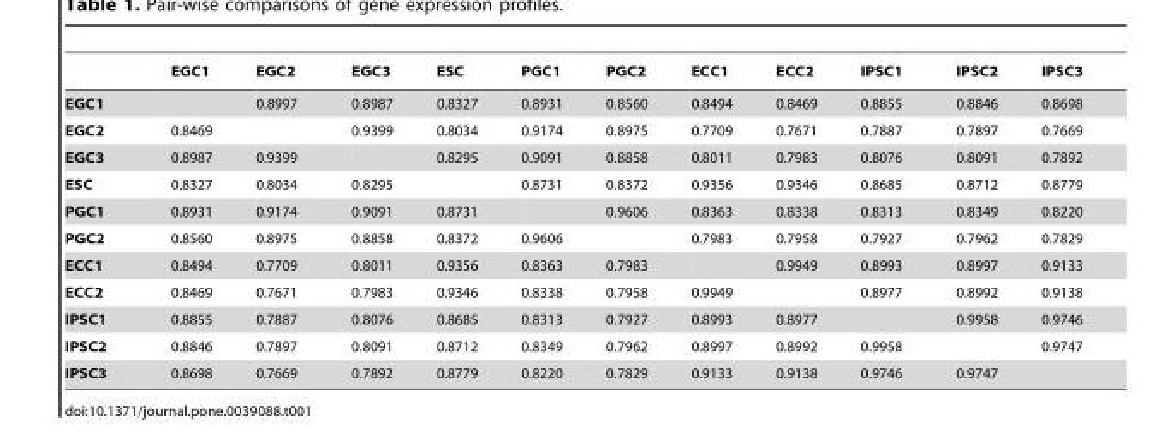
<table><thead><tr><td></td><td>EGC1</td><td>EGC2</td><td>EGC3</td><td>ESC</td><td>PGC1</td><td>PGC2</td><td>ECC1</td><td>ECC2</td><td>IPSC1</td><td>IPSC2</td><td>IPSC3</td></tr></thead><tbody><tr><td>EGC1</td><td></td><td>0.8997</td><td>0.8987</td><td>0.8327</td><td>0.8931</td><td>0.8560</td><td>0.8494</td><td>0.8469</td><td>0.8855</td><td>0.8846</td><td>0.8698</td></tr><tr><td>EGC2</td><td>0.8469</td><td></td><td>0.9399</td><td>0.8034</td><td>0.9174</td><td>0.8975</td><td>0.7709</td><td>0.7671</td><td>0.7887</td><td>0.7897</td><td>0.7669</td></tr><tr><td>EGC3</td><td>0.8987</td><td>0.9399</td><td></td><td>0.8295</td><td>0.9091</td><td>0.8858</td><td>0.8011</td><td>0.7983</td><td>0.8076</td><td>0.8091</td><td>0.7892</td></tr><tr><td>ESC</td><td>0.8327</td><td>0.8034</td><td>0.8295</td><td></td><td>0.8731</td><td>0.8372</td><td>0.9356</td><td>0.9346</td><td>0.8685</td><td>0.8712</td><td>0.8779</td></tr><tr><td>PGC1</td><td>0.8931</td><td>0.9174</td><td>0.9091</td><td>0.8731</td><td></td><td>0.9606</td><td>0.8363</td><td>0.8338</td><td>0.8313</td><td>0.8349</td><td>0.8220</td></tr><tr><td>PGC2</td><td>0.8560</td><td>0.8975</td><td>0.8858</td><td>0.8372</td><td>0.9606</td><td></td><td>0.7983</td><td>0.7958</td><td>0.7927</td><td>0.7962</td><td>0.7829</td></tr><tr><td>ECC1</td><td>0.8494</td><td>0.7709</td><td>0.8011</td><td>0.9356</td><td>0.8363</td><td>0.7983</td><td></td><td>0.9949</td><td>0.8993</td><td>0.8997</td><td>0.9133</td></tr><tr><td>ECC2</td><td>0.8469</td><td>0.7671</td><td>0.7983</td><td>0.9346</td><td>0.8338</td><td>0.7958</td><td>0.9949</td><td></td><td>0.8977</td><td>0.8992</td><td>0.9138</td></tr><tr><td>IPSC1</td><td>0.8855</td><td>0.7887</td><td>0.8076</td><td>0.8685</td><td>0.8313</td><td>0.7927</td><td>0.8993</td><td>0.8977</td><td></td><td>0.9958</td><td>0.9746</td></tr><tr><td>IPSC2</td><td>0.8846</td><td>0.7897</td><td>0.8091</td><td>0.8712</td><td>0.8349</td><td>0.7962</td><td>0.8997</td><td>0.8992</td><td>0.9958</td><td></td><td>0.9747</td></tr><tr><td>IPSC3</td><td>0.8698</td><td>0.7669</td><td>0.7892</td><td>0.8779</td><td>0.8220</td><td>0.7829</td><td>0.9133</td><td>0.9138</td><td>0.9746</td><td>0.9747</td><td></td></tr></tbody></table>